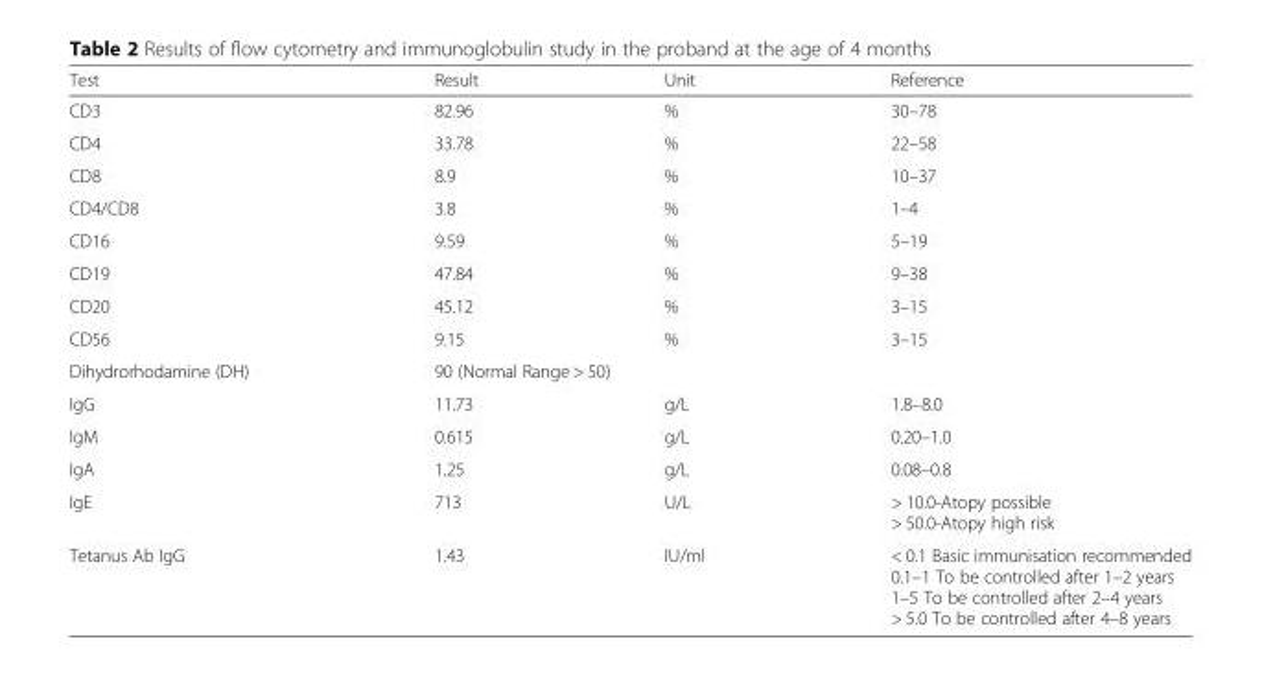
<table><thead><tr><td>Test</td><td>Result</td><td>Unit</td><td>Reference</td></tr></thead><tbody><tr><td>CD3</td><td>82.96</td><td>%</td><td>30–78</td></tr><tr><td>CD4</td><td>33.78</td><td>%</td><td>22–58</td></tr><tr><td>CD8</td><td>8.9</td><td>%</td><td>10–37</td></tr><tr><td>CD4/CD8</td><td>3.8</td><td>%</td><td>1–4</td></tr><tr><td>CD16</td><td>9.59</td><td>%</td><td>5–19</td></tr><tr><td>CD19</td><td>47.84</td><td>%</td><td>9–38</td></tr><tr><td>CD20</td><td>45.12</td><td>%</td><td>3–15</td></tr><tr><td>CD56</td><td>9.15</td><td>%</td><td>3–15</td></tr><tr><td>Dihydrorhodamine (DH)</td><td colspan="3">90 (Normal Range &gt; 50)</td></tr><tr><td>IgG</td><td>11.73</td><td>g/L</td><td>1.8–8.0</td></tr><tr><td>IgM</td><td>0.615</td><td>g/L</td><td>0.20–1.0</td></tr><tr><td>IgA</td><td>1.25</td><td>g/L</td><td>0.08–0.8</td></tr><tr><td>IgE</td><td>713</td><td>U/L</td><td>&gt; 10.0-Atopy possible &gt; 50.0-Atopy high risk</td></tr><tr><td>Tetanus Ab IgG</td><td>1.43</td><td>IU/ml</td><td>&lt; 0.1 Basic immunisation recommended 0.1–1 To be controlled after 1–2 years 1–5 To be controlled after 2–4 years &gt; 5.0 To be controlled after 4–8 years</td></tr></tbody></table>